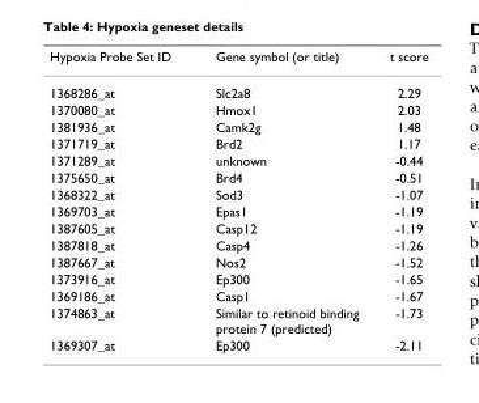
<table><thead><tr><td>Hypoxia Probe Set ID</td><td>Gene symbol (or title)</td><td>t score</td></tr></thead><tbody><tr><td>1368286_at</td><td>Slc2a8</td><td>2.29</td></tr><tr><td>1370080_at</td><td>Hmox1</td><td>2.03</td></tr><tr><td>1381936_at</td><td>Camk2g</td><td>1.48</td></tr><tr><td>1371719_at</td><td>Brd2</td><td>1.17</td></tr><tr><td>1371289_at</td><td>unknown</td><td>-0.44</td></tr><tr><td>1375650_at</td><td>Brd4</td><td>-0.51</td></tr><tr><td>1368322_at</td><td>Sod3</td><td>-1.07</td></tr><tr><td>1369703_at</td><td>Epas1</td><td>-1.19</td></tr><tr><td>1387605_at</td><td>Casp12</td><td>-1.19</td></tr><tr><td>1387818_at</td><td>Casp4</td><td>-1.26</td></tr><tr><td>1387667_at</td><td>Nos2</td><td>-1.52</td></tr><tr><td>1373916_at</td><td>Ep300</td><td>-1.65</td></tr><tr><td>1369186_at</td><td>Casp1</td><td>-1.67</td></tr><tr><td>1374863_at</td><td>Similar to retinoid binding protein 7 (predicted)</td><td>-1.73</td></tr><tr><td>1369307_at</td><td>Ep300</td><td>-2.11</td></tr></tbody></table>